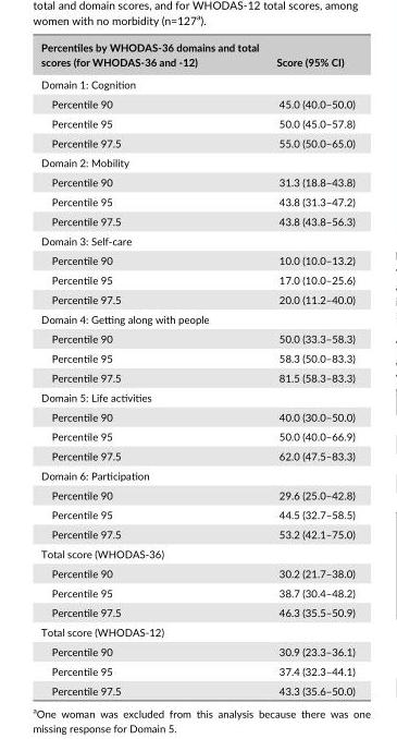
<table><thead><tr><td>Percentiles by WHODAS- 36 domains and total scores (for WHODAS- 36 and - 12)</td><td>Score (95% CI)</td></tr></thead><tbody><tr><td colspan="2">Domain 1: Cognition</td></tr><tr><td>Percentile 90</td><td>45.0 (40.0–50.0)</td></tr><tr><td>Percentile 95</td><td>50.0 (45.0–57.8)</td></tr><tr><td>Percentile 97.5</td><td>55.0 (50.0–65.0)</td></tr><tr><td colspan="2">Domain 2: Mobility</td></tr><tr><td>Percentile 90</td><td>31.3 (18.8–43.8)</td></tr><tr><td>Percentile 95</td><td>43.8 (31.3–47.2)</td></tr><tr><td>Percentile 97.5</td><td>43.8 (43.8–56.3)</td></tr><tr><td colspan="2">Domain 3: Self- care</td></tr><tr><td>Percentile 90</td><td>10.0 (10.0–13.2)</td></tr><tr><td>Percentile 95</td><td>17.0 (10.0–25.6)</td></tr><tr><td>Percentile 97.5</td><td>20.0 (11.2–40.0)</td></tr><tr><td colspan="2">Domain 4: Getting along with people</td></tr><tr><td>Percentile 90</td><td>50.0 (33.3–58.3)</td></tr><tr><td>Percentile 95</td><td>58.3 (50.0–83.3)</td></tr><tr><td>Percentile 97.5</td><td>81.5 (58.3–83.3)</td></tr><tr><td colspan="2">Domain 5: Life activities</td></tr><tr><td>Percentile 90</td><td>40.0 (30.0–50.0)</td></tr><tr><td>Percentile 95</td><td>50.0 (40.0–66.9)</td></tr><tr><td>Percentile 97.5</td><td>62.0 (47.5–83.3)</td></tr><tr><td colspan="2">Domain 6: Participation</td></tr><tr><td>Percentile 90</td><td>29.6 (25.0–42.8)</td></tr><tr><td>Percentile 95</td><td>44.5 (32.7–58.5)</td></tr><tr><td>Percentile 97.5</td><td>53.2 (42.1–75.0)</td></tr><tr><td colspan="2">Total score (WHODAS- 36)</td></tr><tr><td>Percentile 90</td><td>30.2 (21.7–38.0)</td></tr><tr><td>Percentile 95</td><td>38.7 (30.4–48.2)</td></tr><tr><td>Percentile 97.5</td><td>46.3 (35.5–50.9)</td></tr><tr><td colspan="2">Total score (WHODAS- 12)</td></tr><tr><td>Percentile 90</td><td>30.9 (23.3–36.1)</td></tr><tr><td>Percentile 95</td><td>37.4 (32.3–44.1)</td></tr><tr><td>Percentile 97.5</td><td>43.3 (35.6–50.0)</td></tr></tbody></table>